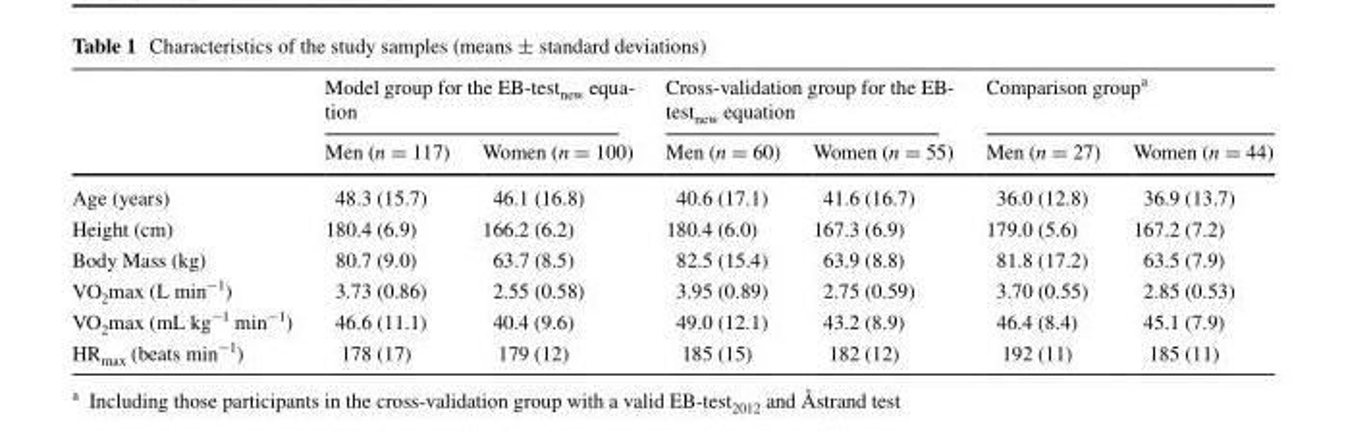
<table><thead><tr><td rowspan="2"></td><td colspan="2">Model group for the EB-testnew equa- tion</td><td colspan="2">Cross-validation group for the EB- test<sub>new</sub> equation</td><td colspan="2">Comparison group<sup>a</sup></td></tr><tr><td>Men (n = 117)</td><td>Women (n = 100)</td><td>Men (n = 60)</td><td>Women (n = 55)</td><td>Men (n = 27)</td><td>Women (n = 44)</td></tr></thead><tbody><tr><td>Age (years)</td><td>48.3 (15.7)</td><td>46.1 (16.8)</td><td>40.6 (17.1)</td><td>41.6 (16.7)</td><td>36.0 (12.8)</td><td>36.9 (13.7)</td></tr><tr><td>Height (cm)</td><td>180.4 (6.9)</td><td>166.2 (6.2)</td><td>180.4 (6.0)</td><td>167.3 (6.9)</td><td>179.0 (5.6)</td><td>167.2 (7.2)</td></tr><tr><td>Body Mass (kg)</td><td>80.7 (9.0)</td><td>63.7 (8.5)</td><td>82.5 (15.4)</td><td>63.9 (8.8)</td><td>81.8 (17.2)</td><td>63.5 (7.9)</td></tr><tr><td>VO<sub>2</sub>max (L min<sup>−1</sup>)</td><td>3.73 (0.86)</td><td>2.55 (0.58)</td><td>3.95 (0.89)</td><td>2.75 (0.59)</td><td>3.70 (0.55)</td><td>2.85 (0.53)</td></tr><tr><td>VO<sub>2</sub>max (mL kg<sup>−1</sup> min<sup>−1</sup>)</td><td>46.6 (11.1)</td><td>40.4 (9.6)</td><td>49.0 (12.1)</td><td>43.2 (8.9)</td><td>46.4 (8.4)</td><td>45.1 (7.9)</td></tr><tr><td>HR<sub>max</sub> (beats min<sup>−1</sup>)</td><td>178 (17)</td><td>179 (12)</td><td>185 (15)</td><td>182 (12)</td><td>192 (11)</td><td>185 (11)</td></tr></tbody></table>